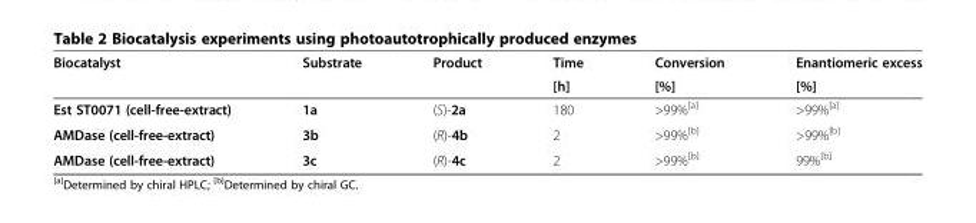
<table><thead><tr><td rowspan="2">Biocatalyst</td><td rowspan="2">Substrate</td><td rowspan="2">Product</td><td rowspan="2">Time [h]</td><td rowspan="2">Conversion [%]</td><td rowspan="2">Enantiomeric excess [%]</td></tr><tr></tr></thead><tbody><tr><td>Est ST0071 (cell-free-extract)</td><td>1a</td><td>(S)-2a</td><td>180</td><td>&gt;99%<sup>[a]</sup></td><td>&gt;99%<sup>[a]</sup></td></tr><tr><td>AMDase (cell-free-extract)</td><td>3b</td><td>(R)-4b</td><td>2</td><td>&gt;99%<sup>[b]</sup></td><td>&gt;99%<sup>[b]</sup></td></tr><tr><td>AMDase (cell-free-extract)</td><td>3c</td><td>(R)-4c</td><td>2</td><td>&gt;99%<sup>[b]</sup></td><td>99%<sup>[b]</sup></td></tr></tbody></table>